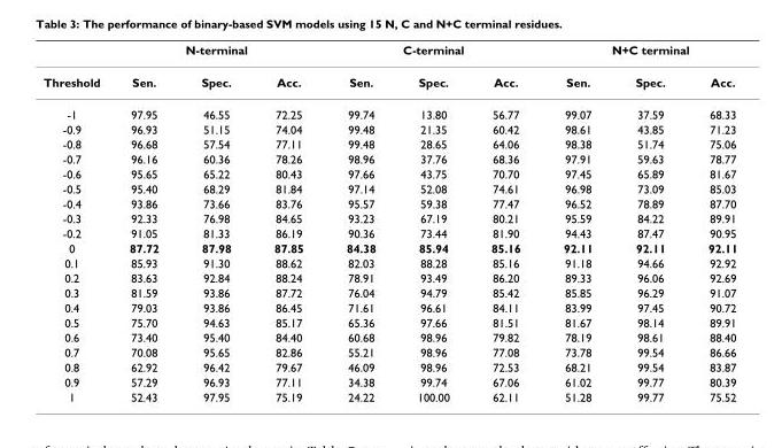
<table><thead><tr><td rowspan="2">Threshold</td><td colspan="3">N-terminal</td><td colspan="3">C-terminal</td><td colspan="3">N+C terminal</td></tr><tr><td>Sen.</td><td>Spec.</td><td>Acc.</td><td>Sen.</td><td>Spec.</td><td>Acc.</td><td>Sen.</td><td>Spec.</td><td>Acc.</td></tr></thead><tbody><tr><td>-1</td><td>97.95</td><td>46.55</td><td>72.25</td><td>99.74</td><td>13.80</td><td>56.77</td><td>99.07</td><td>37.59</td><td>68.33</td></tr><tr><td>-0.9</td><td>96.93</td><td>51.15</td><td>74.04</td><td>99.48</td><td>21.35</td><td>60.42</td><td>98.61</td><td>43.85</td><td>71.23</td></tr><tr><td>-0.8</td><td>96.68</td><td>57.54</td><td>77.11</td><td>99.48</td><td>28.65</td><td>64.06</td><td>98.38</td><td>51.74</td><td>75.06</td></tr><tr><td>-0.7</td><td>96.16</td><td>60.36</td><td>78.26</td><td>98.96</td><td>37.76</td><td>68.36</td><td>97.91</td><td>59.63</td><td>78.77</td></tr><tr><td>-0.6</td><td>95.65</td><td>65.22</td><td>80.43</td><td>97.66</td><td>43.75</td><td>70.70</td><td>97.45</td><td>65.89</td><td>81.67</td></tr><tr><td>-0.5</td><td>95.40</td><td>68.29</td><td>81.84</td><td>97.14</td><td>52.08</td><td>74.61</td><td>96.98</td><td>73.09</td><td>85.03</td></tr><tr><td>-0.4</td><td>93.86</td><td>73.66</td><td>83.76</td><td>95.57</td><td>59.38</td><td>77.47</td><td>96.52</td><td>78.89</td><td>87.70</td></tr><tr><td>-0.3</td><td>92.33</td><td>76.98</td><td>84.65</td><td>93.23</td><td>67.19</td><td>80.21</td><td>95.59</td><td>84.22</td><td>89.91</td></tr><tr><td>-0.2</td><td>91.05</td><td>81.33</td><td>86.19</td><td>90.36</td><td>73.44</td><td>81.90</td><td>94.43</td><td>87.47</td><td>90.95</td></tr><tr><td>0</td><td>87.72</td><td>87.98</td><td>87.85</td><td>84.38</td><td>85.94</td><td>85.16</td><td>92.11</td><td>92.11</td><td>92.11</td></tr><tr><td>0.1</td><td>85.93</td><td>91.30</td><td>88.62</td><td>82.03</td><td>88.28</td><td>85.16</td><td>91.18</td><td>94.66</td><td>92.92</td></tr><tr><td>0.2</td><td>83.63</td><td>92.84</td><td>88.24</td><td>78.91</td><td>93.49</td><td>86.20</td><td>89.33</td><td>96.06</td><td>92.69</td></tr><tr><td>0.3</td><td>81.59</td><td>93.86</td><td>87.72</td><td>76.04</td><td>94.79</td><td>85.42</td><td>85.85</td><td>96.29</td><td>91.07</td></tr><tr><td>0.4</td><td>79.03</td><td>93.86</td><td>86.45</td><td>71.61</td><td>96.61</td><td>84.11</td><td>83.99</td><td>97.45</td><td>90.72</td></tr><tr><td>0.5</td><td>75.70</td><td>94.63</td><td>85.17</td><td>65.36</td><td>97.66</td><td>81.51</td><td>81.67</td><td>98.14</td><td>89.91</td></tr><tr><td>0.6</td><td>73.40</td><td>95.40</td><td>84.40</td><td>60.68</td><td>98.96</td><td>79.82</td><td>78.19</td><td>98.61</td><td>88.40</td></tr><tr><td>0.7</td><td>70.08</td><td>95.65</td><td>82.86</td><td>55.21</td><td>98.96</td><td>77.08</td><td>73.78</td><td>99.54</td><td>86.66</td></tr><tr><td>0.8</td><td>62.92</td><td>96.42</td><td>79.67</td><td>46.09</td><td>98.96</td><td>72.53</td><td>68.21</td><td>99.54</td><td>83.87</td></tr><tr><td>0.9</td><td>57.29</td><td>96.93</td><td>77.11</td><td>34.38</td><td>99.74</td><td>67.06</td><td>61.02</td><td>99.77</td><td>80.39</td></tr><tr><td>1</td><td>52.43</td><td>97.95</td><td>75.19</td><td>24.22</td><td>100.00</td><td>62.11</td><td>51.28</td><td>99.77</td><td>75.52</td></tr></tbody></table>